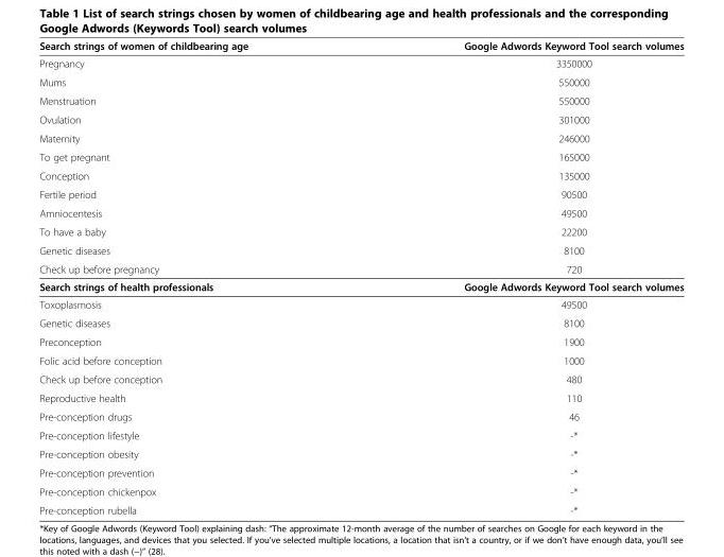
<table><thead><tr><td>Search strings of women of childbearing age</td><td>Google Adwords Keyword Tool search volumes</td></tr></thead><tbody><tr><td>Pregnancy</td><td>3350000</td></tr><tr><td>Mums</td><td>550000</td></tr><tr><td>Menstruation</td><td>550000</td></tr><tr><td>Ovulation</td><td>301000</td></tr><tr><td>Maternity</td><td>246000</td></tr><tr><td>To get pregnant</td><td>165000</td></tr><tr><td>Conception</td><td>135000</td></tr><tr><td>Fertile period</td><td>90500</td></tr><tr><td>Amniocentesis</td><td>49500</td></tr><tr><td>To have a baby</td><td>22200</td></tr><tr><td>Genetic diseases</td><td>8100</td></tr><tr><td>Check up before pregnancy</td><td>720</td></tr><tr><td>Search strings of health professionals</td><td>Google Adwords Keyword Tool search volumes</td></tr><tr><td>Toxoplasmosis</td><td>49500</td></tr><tr><td>Genetic diseases</td><td>8100</td></tr><tr><td>Preconception</td><td>1900</td></tr><tr><td>Folic acid before conception</td><td>1000</td></tr><tr><td>Check up before conception</td><td>480</td></tr><tr><td>Reproductive health</td><td>110</td></tr><tr><td>Pre-conception drugs</td><td>46</td></tr><tr><td>Pre-conception lifestyle</td><td>-*</td></tr><tr><td>Pre-conception obesity</td><td>-*</td></tr><tr><td>Pre-conception prevention</td><td>-*</td></tr><tr><td>Pre-conception chickenpox</td><td>-*</td></tr><tr><td>Pre-conception rubella</td><td>-*</td></tr></tbody></table>